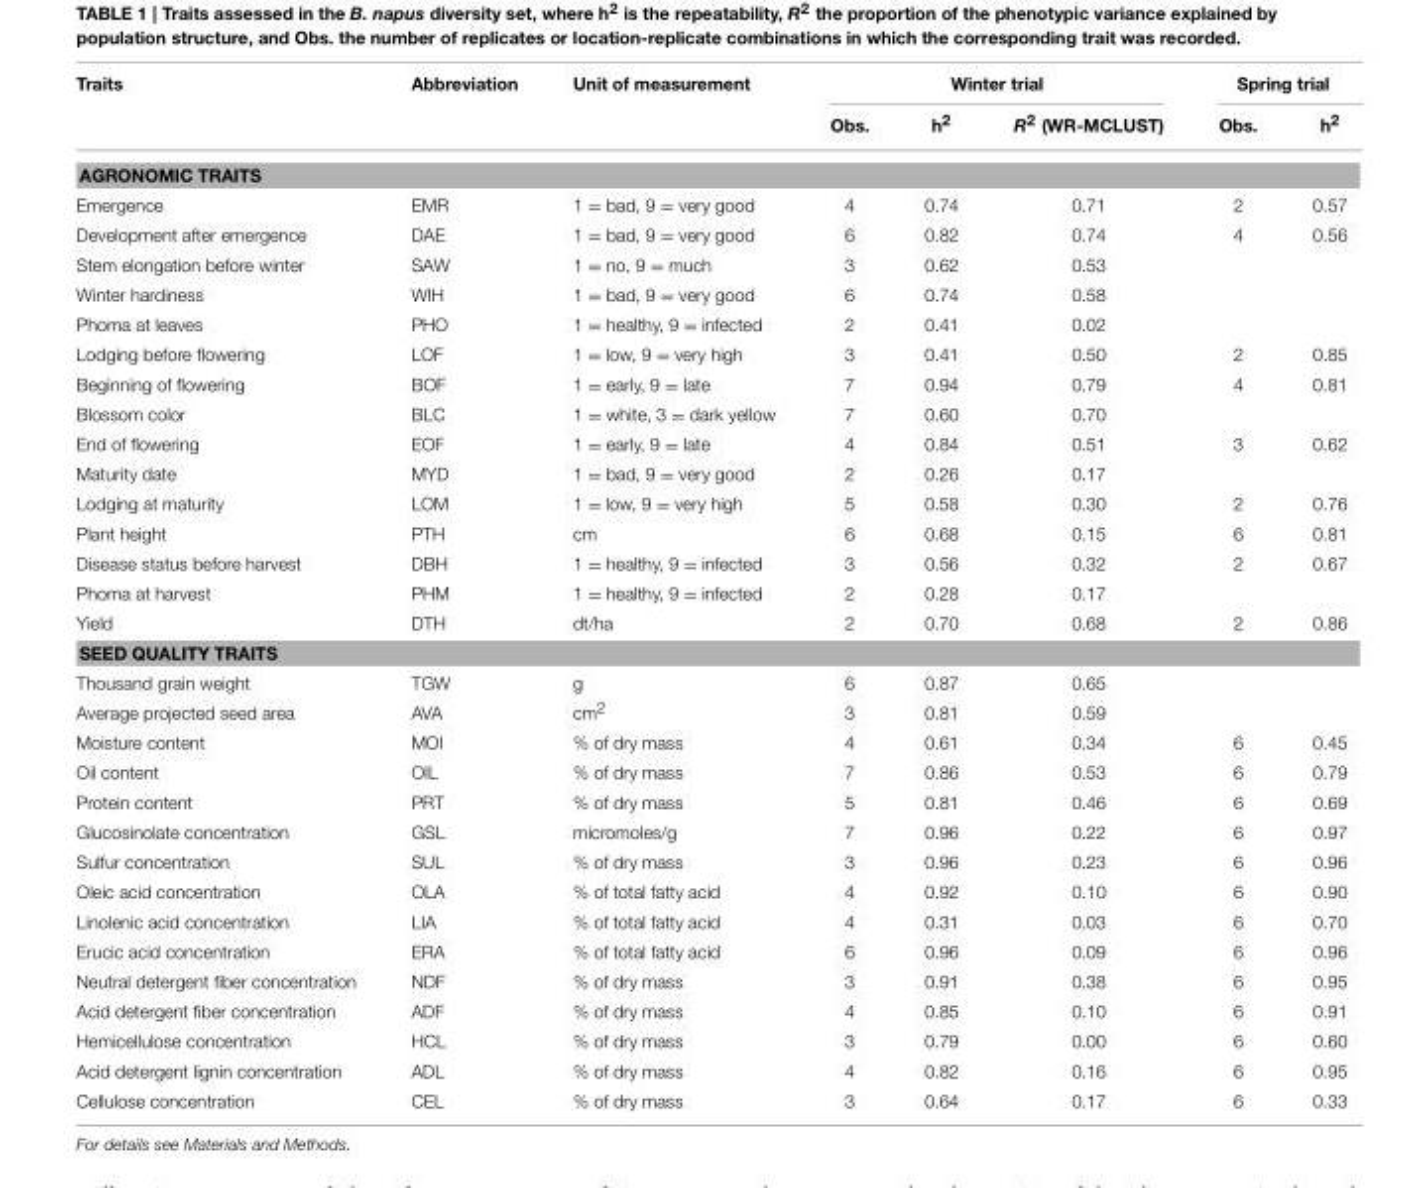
<table><thead><tr><td rowspan="2">Traits</td><td rowspan="2">Abbreviation</td><td rowspan="2">Unit of measurement</td><td colspan="3">Winter trial</td><td colspan="2">Spring trial</td></tr><tr><td>Obs.</td><td>h<sup>2</sup></td><td>R<sup>2</sup> (WR-MCLUST)</td><td>Obs.</td><td>h<sup>2</sup></td></tr></thead><tbody><tr><td colspan="8">AGRONOMIC TRAITS</td></tr><tr><td>Emergence</td><td>EMR</td><td>1 = bad, 9 = very good</td><td>4</td><td>0.74</td><td>0.71</td><td>2</td><td>0.57</td></tr><tr><td>Development after emergence</td><td>DAE</td><td>1 = bad, 9 = very good</td><td>6</td><td>0.82</td><td>0.74</td><td>4</td><td>0.56</td></tr><tr><td>Stem elongation before winter</td><td>SAW</td><td>1 = no, 9 = much</td><td>3</td><td>0.62</td><td>0.53</td><td></td><td></td></tr><tr><td>Winter hardiness</td><td>WIH</td><td>1 = bad, 9 = very good</td><td>6</td><td>0.74</td><td>0.58</td><td></td><td></td></tr><tr><td>Phoma at leaves</td><td>PHO</td><td>1 = healthy, 9 = infected</td><td>2</td><td>0.41</td><td>0.02</td><td></td><td></td></tr><tr><td>Lodging before flowering</td><td>LOF</td><td>1 = low, 9 = very high</td><td>3</td><td>0.41</td><td>0.50</td><td>2</td><td>0.85</td></tr><tr><td>Beginning of flowering</td><td>BOF</td><td>1 = early, 9 = late</td><td>7</td><td>0.94</td><td>0.79</td><td>4</td><td>0.81</td></tr><tr><td>Blossom color</td><td>BLC</td><td>1 = white, 3 = dark yellow</td><td>7</td><td>0.60</td><td>0.70</td><td></td><td></td></tr><tr><td>End of flowering</td><td>EOF</td><td>1 = early, 9 = late</td><td>4</td><td>0.84</td><td>0.51</td><td>3</td><td>0.62</td></tr><tr><td>Maturity date</td><td>MYD</td><td>1 = bad, 9 = very good</td><td>2</td><td>0.26</td><td>0.17</td><td></td><td></td></tr><tr><td>Lodging at maturity</td><td>LOM</td><td>1 = low, 9 = very high</td><td>5</td><td>0.58</td><td>0.30</td><td>2</td><td>0.76</td></tr><tr><td>Plant height</td><td>PTH</td><td>cm</td><td>6</td><td>0.68</td><td>0.15</td><td>6</td><td>0.81</td></tr><tr><td>Disease status before harvest</td><td>DBH</td><td>1 = healthy, 9 = infected</td><td>3</td><td>0.56</td><td>0.32</td><td>2</td><td>0.67</td></tr><tr><td>Phoma at harvest</td><td>PHM</td><td>1 = healthy, 9 = infected</td><td>2</td><td>0.28</td><td>0.17</td><td></td><td></td></tr><tr><td>Yield</td><td>DTH</td><td>dt/ha</td><td>2</td><td>0.70</td><td>0.68</td><td>2</td><td>0.86</td></tr><tr><td colspan="8">SEED QUALITY TRAITS</td></tr><tr><td>Thousand grain weight</td><td>TGW</td><td>g</td><td>6</td><td>0.87</td><td>0.65</td><td></td><td></td></tr><tr><td>Average projected seed area</td><td>AVA</td><td>cm<sup>2</sup></td><td>3</td><td>0.81</td><td>0.59</td><td></td><td></td></tr><tr><td>Moisture content</td><td>MOI</td><td>% of dry mass</td><td>4</td><td>0.61</td><td>0.34</td><td>6</td><td>0.45</td></tr><tr><td>Oil content</td><td>OIL</td><td>% of dry mass</td><td>7</td><td>0.86</td><td>0.53</td><td>6</td><td>0.79</td></tr><tr><td>Protein content</td><td>PRT</td><td>% of dry mass</td><td>5</td><td>0.81</td><td>0.46</td><td>6</td><td>0.69</td></tr><tr><td>Glucosinolate concentration</td><td>GSL</td><td>micromoles/g</td><td>7</td><td>0.96</td><td>0.22</td><td>6</td><td>0.97</td></tr><tr><td>Sulfur concentration</td><td>SUL</td><td>% of dry mass</td><td>3</td><td>0.96</td><td>0.23</td><td>6</td><td>0.96</td></tr><tr><td>Oleic acid concentration</td><td>OLA</td><td>% of total fatty acid</td><td>4</td><td>0.92</td><td>0.10</td><td>6</td><td>0.90</td></tr><tr><td>Linolenic acid concentration</td><td>LIA</td><td>% of total fatty acid</td><td>4</td><td>0.31</td><td>0.03</td><td>6</td><td>0.70</td></tr><tr><td>Erucic acid concentration</td><td>ERA</td><td>% of total fatty acid</td><td>6</td><td>0.96</td><td>0.09</td><td>6</td><td>0.96</td></tr><tr><td>Neutral detergent fiber concentration</td><td>NDF</td><td>% of dry mass</td><td>3</td><td>0.91</td><td>0.38</td><td>6</td><td>0.95</td></tr><tr><td>Acid detergent fiber concentration</td><td>ADF</td><td>% of dry mass</td><td>4</td><td>0.85</td><td>0.10</td><td>6</td><td>0.91</td></tr><tr><td>Hemicellulose concentration</td><td>HCL</td><td>% of dry mass</td><td>3</td><td>0.79</td><td>0.00</td><td>6</td><td>0.60</td></tr><tr><td>Acid detergent lignin concentration</td><td>ADL</td><td>% of dry mass</td><td>4</td><td>0.82</td><td>0.16</td><td>6</td><td>0.95</td></tr><tr><td>Cellulose concentration</td><td>CEL</td><td>% of dry mass</td><td>3</td><td>0.64</td><td>0.17</td><td>6</td><td>0.33</td></tr></tbody></table>